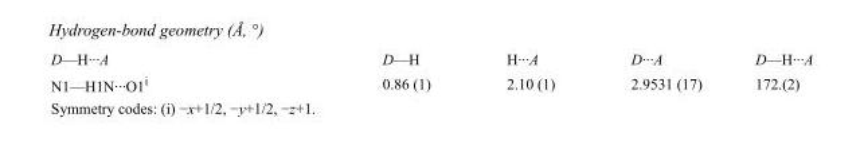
<table><tbody><tr><td>D—H···A</td><td>D—H</td><td>H···A</td><td>D···A</td><td>D—H···A</td></tr><tr><td>N1—H1N···O1<sup>i</sup></td><td>0.86 (1)</td><td>2.10 (1)</td><td>2.9531 (17)</td><td>172.(2)</td></tr></tbody></table>